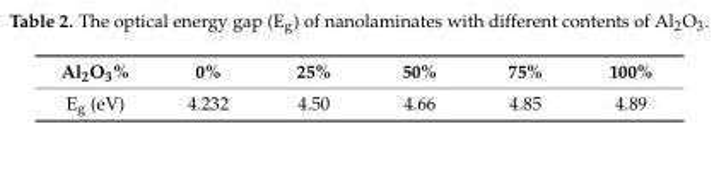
<table><thead><tr><td>Al<sub>2</sub>O<sub>3</sub>%</td><td>0%</td><td>25%</td><td>50%</td><td>75%</td><td>100%</td></tr></thead><tbody><tr><td>E<sub>g</sub> (eV)</td><td>4.232</td><td>4.50</td><td>4.66</td><td>4.85</td><td>4.89</td></tr></tbody></table>